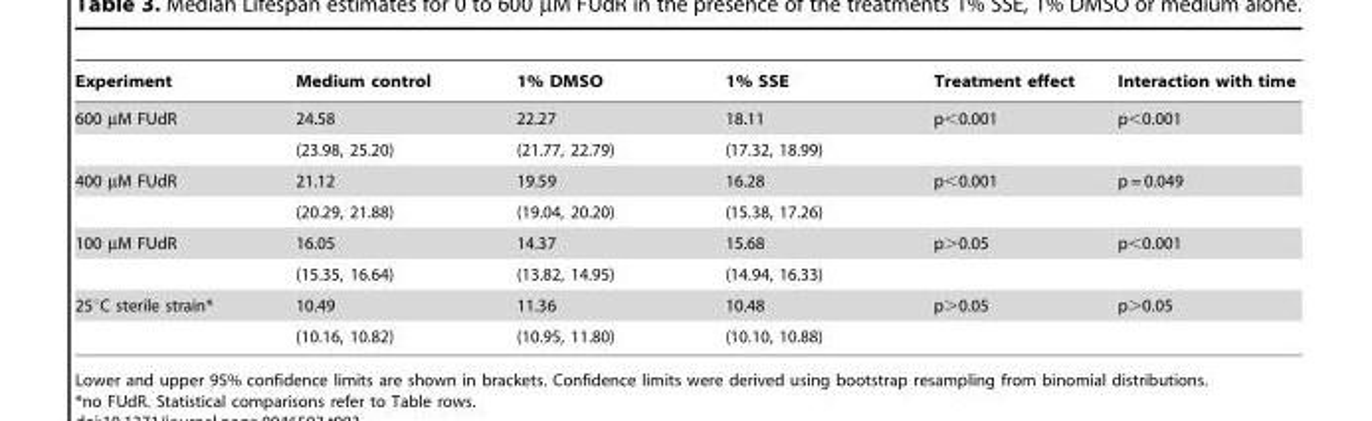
<table><thead><tr><td>Experiment</td><td>Medium control</td><td>1% DMSO</td><td>1% SSE</td><td>Treatment effect</td><td>Interaction with time</td></tr></thead><tbody><tr><td rowspan="2">600 µM FUdR</td><td>24.58</td><td>22.27</td><td>18.11</td><td>p&lt;0.001</td><td>p&lt;0.001</td></tr><tr><td>(23.98, 25.20)</td><td>(21.77, 22.79)</td><td>(17.32, 18.99)</td><td></td><td></td></tr><tr><td rowspan="2">400 µM FUdR</td><td>21.12</td><td>19.59</td><td>16.28</td><td>p&lt;0.001</td><td>p = 0.049</td></tr><tr><td>(20.29, 21.88)</td><td>(19.04, 20.20)</td><td>(15.38, 17.26)</td><td></td><td></td></tr><tr><td rowspan="2">100 µM FUdR</td><td>16.05</td><td>14.37</td><td>15.68</td><td>p&gt;0.05</td><td>p&lt;0.001</td></tr><tr><td>(15.35, 16.64)</td><td>(13.82, 14.95)</td><td>(14.94, 16.33)</td><td></td><td></td></tr><tr><td rowspan="2">25°C sterile strain*</td><td>10.49</td><td>11.36</td><td>10.48</td><td>p&gt;0.05</td><td>p&gt;0.05</td></tr><tr><td>(10.16, 10.82)</td><td>(10.95, 11.80)</td><td>(10.10, 10.88)</td><td></td><td></td></tr></tbody></table>